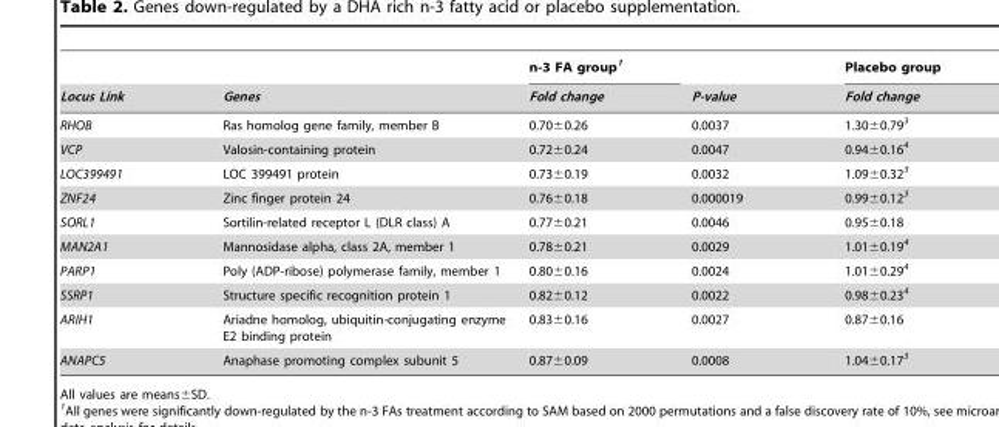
<table><thead><tr><td rowspan="2">Locus Link</td><td rowspan="2">Genes</td><td rowspan="2">n-3 FA group<sup>1</sup> Fold change</td><td rowspan="2">P-value</td><td rowspan="2">Placebo group Fold change</td></tr><tr></tr></thead><tbody><tr><td>RHOB</td><td>Ras homolog gene family, member B</td><td>0.70±0.26</td><td>0.0037</td><td>1.30±0.79<sup>3</sup></td></tr><tr><td>VCP</td><td>Valosin-containing protein</td><td>0.72±0.24</td><td>0.0047</td><td>0.94±0.16<sup>4</sup></td></tr><tr><td>LOC399491</td><td>LOC 399491 protein</td><td>0.73±0.19</td><td>0.0032</td><td>1.09±0.32<sup>3</sup></td></tr><tr><td>ZNF24</td><td>Zinc finger protein 24</td><td>0.76±0.18</td><td>0.000019</td><td>0.99±0.12<sup>3</sup></td></tr><tr><td>SORL1</td><td>Sortilin-related receptor L (DLR class) A</td><td>0.77±0.21</td><td>0.0046</td><td>0.95±0.18</td></tr><tr><td>MAN2A1</td><td>Mannosidase alpha, class 2A, member 1</td><td>0.78±0.21</td><td>0.0029</td><td>1.01±0.19<sup>4</sup></td></tr><tr><td>PARP1</td><td>Poly (ADP-ribose) polymerase family, member 1</td><td>0.80±0.16</td><td>0.0024</td><td>1.01±0.29<sup>4</sup></td></tr><tr><td>SSRP1</td><td>Structure specific recognition protein 1</td><td>0.82±0.12</td><td>0.0022</td><td>0.98±0.23<sup>4</sup></td></tr><tr><td>ARIH1</td><td>Ariadne homolog, ubiquitin-conjugating enzyme E2 binding protein</td><td>0.83±0.16</td><td>0.0027</td><td>0.87±0.16</td></tr><tr><td>ANAPC5</td><td>Anaphase promoting complex subunit 5</td><td>0.87±0.09</td><td>0.0008</td><td>1.04±0.17<sup>3</sup></td></tr></tbody></table>